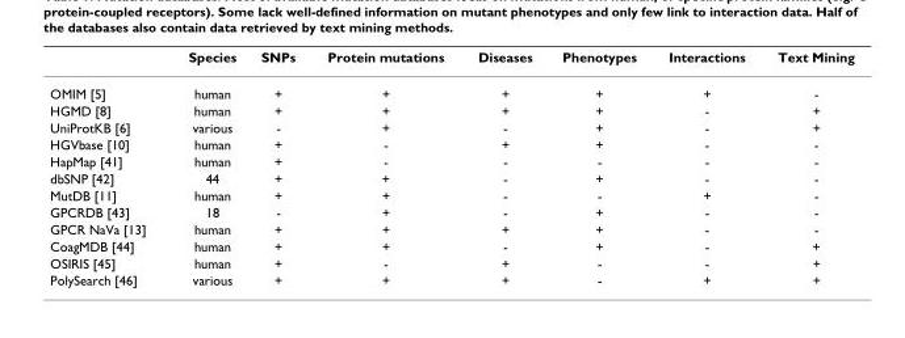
<table><thead><tr><td></td><td>Species</td><td>SNPs</td><td>Protein mutations</td><td>Diseases</td><td>Phenotypes</td><td>Interactions</td><td>Text Mining</td></tr></thead><tbody><tr><td>OMIM [5]</td><td>human</td><td>+</td><td>+</td><td>+</td><td>+</td><td>+</td><td>-</td></tr><tr><td>HGMD [8]</td><td>human</td><td>+</td><td>+</td><td>+</td><td>+</td><td>-</td><td>+</td></tr><tr><td>UniProtKB [6]</td><td>various</td><td>-</td><td>+</td><td>-</td><td>+</td><td>-</td><td>+</td></tr><tr><td>HGVbase [10]</td><td>human</td><td>+</td><td>-</td><td>+</td><td>+</td><td>-</td><td>-</td></tr><tr><td>HapMap [41]</td><td>human</td><td>+</td><td>-</td><td>-</td><td>-</td><td>-</td><td>-</td></tr><tr><td>dbSNP [42]</td><td>44</td><td>+</td><td>+</td><td>-</td><td>+</td><td>-</td><td>-</td></tr><tr><td>MutDB [11]</td><td>human</td><td>+</td><td>+</td><td>-</td><td>-</td><td>+</td><td>-</td></tr><tr><td>GPCRDB [43]</td><td>18</td><td>-</td><td>+</td><td>-</td><td>+</td><td>-</td><td>-</td></tr><tr><td>GPCR NaVa [13]</td><td>human</td><td>+</td><td>+</td><td>+</td><td>+</td><td>-</td><td>-</td></tr><tr><td>CoagMDB [44]</td><td>human</td><td>+</td><td>+</td><td>-</td><td>+</td><td>-</td><td>+</td></tr><tr><td>OSIRIS [45]</td><td>human</td><td>+</td><td>-</td><td>+</td><td>-</td><td>-</td><td>+</td></tr><tr><td>PolySearch [46]</td><td>various</td><td>+</td><td>+</td><td>+</td><td>-</td><td>+</td><td>+</td></tr></tbody></table>